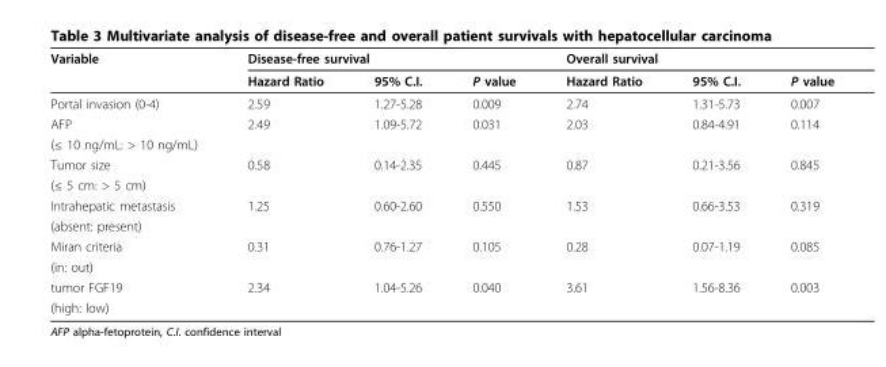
<table><thead><tr><td rowspan="2">Variable</td><td colspan="3">Disease-free survival</td><td colspan="3">Overall survival</td></tr><tr><td>Hazard Ratio</td><td>95% C.I.</td><td>P value</td><td>Hazard Ratio</td><td>95% C.I.</td><td>P value</td></tr></thead><tbody><tr><td>Portal invasion (0-4)</td><td>2.59</td><td>1.27-5.28</td><td>0.009</td><td>2.74</td><td>1.31-5.73</td><td>0.007</td></tr><tr><td>AFP</td><td>2.49</td><td>1.09-5.72</td><td>0.031</td><td>2.03</td><td>0.84-4.91</td><td>0.114</td></tr><tr><td colspan="7">(≤ 10 ng/mL: &gt; 10 ng/mL)</td></tr><tr><td>Tumor size</td><td>0.58</td><td>0.14-2.35</td><td>0.445</td><td>0.87</td><td>0.21-3.56</td><td>0.845</td></tr><tr><td colspan="7">(≤ 5 cm: &gt; 5 cm)</td></tr><tr><td>Intrahepatic metastasis</td><td>1.25</td><td>0.60-2.60</td><td>0.550</td><td>1.53</td><td>0.66-3.53</td><td>0.319</td></tr><tr><td colspan="7">(absent: present)</td></tr><tr><td>Miran criteria</td><td>0.31</td><td>0.76-1.27</td><td>0.105</td><td>0.28</td><td>0.07-1.19</td><td>0.085</td></tr><tr><td colspan="7">(in: out)</td></tr><tr><td>tumor FGF19</td><td>2.34</td><td>1.04-5.26</td><td>0.040</td><td>3.61</td><td>1.56-8.36</td><td>0.003</td></tr><tr><td>(high: low)</td><td></td><td></td><td></td><td></td><td></td><td></td></tr></tbody></table>